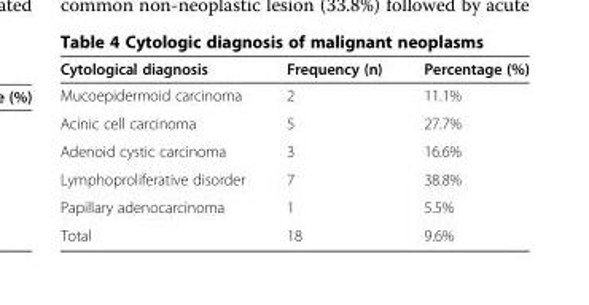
<table><thead><tr><td>Cytological diagnosis</td><td>Frequency (n)</td><td>Percentage (%)</td></tr></thead><tbody><tr><td>Mucoepidermoid carcinoma</td><td>2</td><td>11.1%</td></tr><tr><td>Acinic cell carcinoma</td><td>5</td><td>27.7%</td></tr><tr><td>Adenoid cystic carcinoma</td><td>3</td><td>16.6%</td></tr><tr><td>Lymphoproliferative disorder</td><td>7</td><td>38.8%</td></tr><tr><td>Papillary adenocarcinoma</td><td>1</td><td>5.5%</td></tr><tr><td>Total</td><td>18</td><td>9.6%</td></tr></tbody></table>